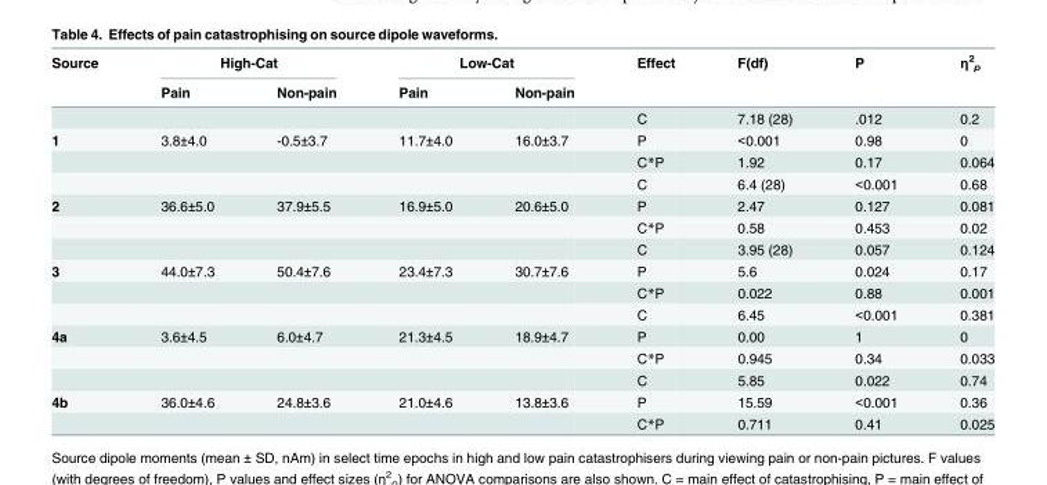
<table><thead><tr><td rowspan="2">Source</td><td colspan="2">High-Cat</td><td colspan="2">Low-Cat</td><td rowspan="2">Effect</td><td rowspan="2">F(df)</td><td rowspan="2">P</td><td rowspan="2">η<sup>2</sup> <sub>p</sub></td></tr><tr><td>Pain</td><td>Non-pain</td><td>Pain</td><td>Non-pain</td></tr></thead><tbody><tr><td></td><td></td><td></td><td></td><td></td><td>C</td><td>7.18 (28)</td><td>.012</td><td>0.2</td></tr><tr><td rowspan="3">1</td><td>3.8±4.0</td><td>-0.5±3.7</td><td>11.7±4.0</td><td>16.0±3.7</td><td>P</td><td>&lt;0.001</td><td>0.98</td><td>0</td></tr><tr><td></td><td></td><td></td><td></td><td>C*P</td><td>1.92</td><td>0.17</td><td>0.064</td></tr><tr><td></td><td></td><td></td><td></td><td>C</td><td>6.4 (28)</td><td>&lt;0.001</td><td>0.68</td></tr><tr><td rowspan="3">2</td><td>36.6±5.0</td><td>37.9±5.5</td><td>16.9±5.0</td><td>20.6±5.0</td><td>P</td><td>2.47</td><td>0.127</td><td>0.081</td></tr><tr><td></td><td></td><td></td><td></td><td>C*P</td><td>0.58</td><td>0.453</td><td>0.02</td></tr><tr><td></td><td></td><td></td><td></td><td>C</td><td>3.95 (28)</td><td>0.057</td><td>0.124</td></tr><tr><td rowspan="3">3</td><td>44.0±7.3</td><td>50.4±7.6</td><td>23.4±7.3</td><td>30.7±7.6</td><td>P</td><td>5.6</td><td>0.024</td><td>0.17</td></tr><tr><td></td><td></td><td></td><td></td><td>C*P</td><td>0.022</td><td>0.88</td><td>0.001</td></tr><tr><td></td><td></td><td></td><td></td><td>C</td><td>6.45</td><td>&lt;0.001</td><td>0.381</td></tr><tr><td rowspan="3">4a</td><td>3.6±4.5</td><td>6.0±4.7</td><td>21.3±4.5</td><td>18.9±4.7</td><td>P</td><td>0.00</td><td>1</td><td>0</td></tr><tr><td></td><td></td><td></td><td></td><td>C*P</td><td>0.945</td><td>0.34</td><td>0.033</td></tr><tr><td></td><td></td><td></td><td></td><td>C</td><td>5.85</td><td>0.022</td><td>0.74</td></tr><tr><td rowspan="2">4b</td><td>36.0±4.6</td><td>24.8±3.6</td><td>21.0±4.6</td><td>13.8±3.6</td><td>P</td><td>15.59</td><td>&lt;0.001</td><td>0.36</td></tr><tr><td></td><td></td><td></td><td></td><td>C*P</td><td>0.711</td><td>0.41</td><td>0.025</td></tr></tbody></table>